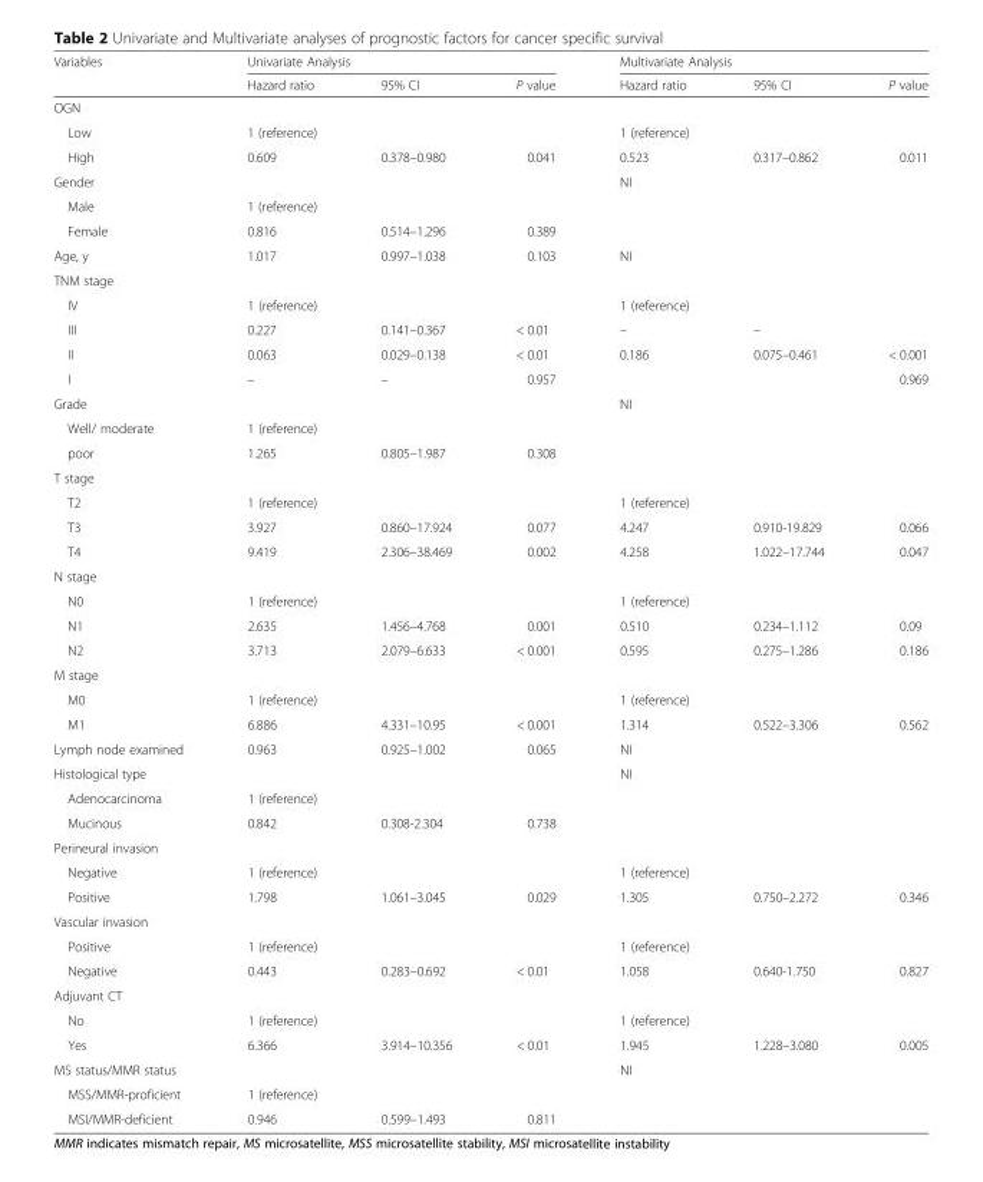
<table><thead><tr><td rowspan="2">Variables</td><td colspan="3">Univariate Analysis</td><td colspan="3">Multivariate Analysis</td></tr><tr><td>Hazard ratio</td><td>95% CI</td><td>P value</td><td>Hazard ratio</td><td>95% CI</td><td>P value</td></tr></thead><tbody><tr><td colspan="7">OGN</td></tr><tr><td>Low</td><td>1 (reference)</td><td></td><td></td><td>1 (reference)</td><td></td><td></td></tr><tr><td>High</td><td>0.609</td><td>0.378–0.980</td><td>0.041</td><td>0.523</td><td>0.317–0.862</td><td>0.011</td></tr><tr><td>Gender</td><td></td><td></td><td></td><td>NI</td><td></td><td></td></tr><tr><td>Male</td><td>1 (reference)</td><td></td><td></td><td></td><td></td><td></td></tr><tr><td>Female</td><td>0.816</td><td>0.514–1.296</td><td>0.389</td><td></td><td></td><td></td></tr><tr><td>Age, y</td><td>1.017</td><td>0.997–1.038</td><td>0.103</td><td>NI</td><td></td><td></td></tr><tr><td colspan="7">TNM stage</td></tr><tr><td>IV</td><td>1 (reference)</td><td></td><td></td><td>1 (reference)</td><td></td><td></td></tr><tr><td>III</td><td>0.227</td><td>0.141–0.367</td><td>&lt; 0.01</td><td>–</td><td>–</td><td></td></tr><tr><td>II</td><td>0.063</td><td>0.029–0.138</td><td>&lt; 0.01</td><td>0.186</td><td>0.075–0.461</td><td>&lt; 0.001</td></tr><tr><td>I</td><td>–</td><td>–</td><td>0.957</td><td></td><td></td><td>0.969</td></tr><tr><td>Grade</td><td></td><td></td><td></td><td>NI</td><td></td><td></td></tr><tr><td>Well/ moderate</td><td>1 (reference)</td><td></td><td></td><td></td><td></td><td></td></tr><tr><td>poor</td><td>1.265</td><td>0.805–1.987</td><td>0.308</td><td></td><td></td><td></td></tr><tr><td colspan="7">T stage</td></tr><tr><td>T2</td><td>1 (reference)</td><td></td><td></td><td>1 (reference)</td><td></td><td></td></tr><tr><td>T3</td><td>3.927</td><td>0.860–17.924</td><td>0.077</td><td>4.247</td><td>0.910-19.829</td><td>0.066</td></tr><tr><td>T4</td><td>9.419</td><td>2.306–38.469</td><td>0.002</td><td>4.258</td><td>1.022–17.744</td><td>0.047</td></tr><tr><td colspan="7">N stage</td></tr><tr><td>N0</td><td>1 (reference)</td><td></td><td></td><td>1 (reference)</td><td></td><td></td></tr><tr><td>N1</td><td>2.635</td><td>1.456–4.768</td><td>0.001</td><td>0.510</td><td>0.234–1.112</td><td>0.09</td></tr><tr><td>N2</td><td>3.713</td><td>2.079–6.633</td><td>&lt; 0.001</td><td>0.595</td><td>0.275–1.286</td><td>0.186</td></tr><tr><td colspan="7">M stage</td></tr><tr><td>M0</td><td>1 (reference)</td><td></td><td></td><td>1 (reference)</td><td></td><td></td></tr><tr><td>M1</td><td>6.886</td><td>4.331–10.95</td><td>&lt; 0.001</td><td>1.314</td><td>0.522–3.306</td><td>0.562</td></tr><tr><td>Lymph node examined</td><td>0.963</td><td>0.925–1.002</td><td>0.065</td><td>NI</td><td></td><td></td></tr><tr><td>Histological type</td><td></td><td></td><td></td><td>NI</td><td></td><td></td></tr><tr><td>Adenocarcinoma</td><td>1 (reference)</td><td></td><td></td><td></td><td></td><td></td></tr><tr><td>Mucinous</td><td>0.842</td><td>0.308-2.304</td><td>0.738</td><td></td><td></td><td></td></tr><tr><td colspan="7">Perineural invasion</td></tr><tr><td>Negative</td><td>1 (reference)</td><td></td><td></td><td>1 (reference)</td><td></td><td></td></tr><tr><td>Positive</td><td>1.798</td><td>1.061–3.045</td><td>0.029</td><td>1.305</td><td>0.750–2.272</td><td>0.346</td></tr><tr><td colspan="7">Vascular invasion</td></tr><tr><td>Positive</td><td>1 (reference)</td><td></td><td></td><td>1 (reference)</td><td></td><td></td></tr><tr><td>Negative</td><td>0.443</td><td>0.283–0.692</td><td>&lt; 0.01</td><td>1.058</td><td>0.640-1.750</td><td>0.827</td></tr><tr><td colspan="7">Adjuvant CT</td></tr><tr><td>No</td><td>1 (reference)</td><td></td><td></td><td>1 (reference)</td><td></td><td></td></tr><tr><td>Yes</td><td>6.366</td><td>3.914–10.356</td><td>&lt; 0.01</td><td>1.945</td><td>1.228–3.080</td><td>0.005</td></tr><tr><td>MS status/MMR status</td><td></td><td></td><td></td><td>NI</td><td></td><td></td></tr><tr><td>MSS/MMR-proficient</td><td>1 (reference)</td><td></td><td></td><td></td><td></td><td></td></tr><tr><td>MSI/MMR-deficient</td><td>0.946</td><td>0.599–1.493</td><td>0.811</td><td></td><td></td><td></td></tr></tbody></table>